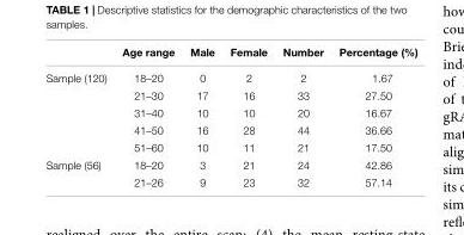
<table><thead><tr><td></td><td>Age range</td><td>Male</td><td>Female</td><td>Number</td><td>Percentage (%)</td></tr></thead><tbody><tr><td rowspan="5">Sample (120)</td><td>18–20</td><td>0</td><td>2</td><td>2</td><td>1.67</td></tr><tr><td>21–30</td><td>17</td><td>16</td><td>33</td><td>27.50</td></tr><tr><td>31–40</td><td>10</td><td>10</td><td>20</td><td>16.67</td></tr><tr><td>41–50</td><td>16</td><td>28</td><td>44</td><td>36.66</td></tr><tr><td>51–60</td><td>10</td><td>11</td><td>21</td><td>17.50</td></tr><tr><td rowspan="2">Sample (56)</td><td>18–20</td><td>3</td><td>21</td><td>24</td><td>42.86</td></tr><tr><td>21–26</td><td>9</td><td>23</td><td>32</td><td>57.14</td></tr></tbody></table>